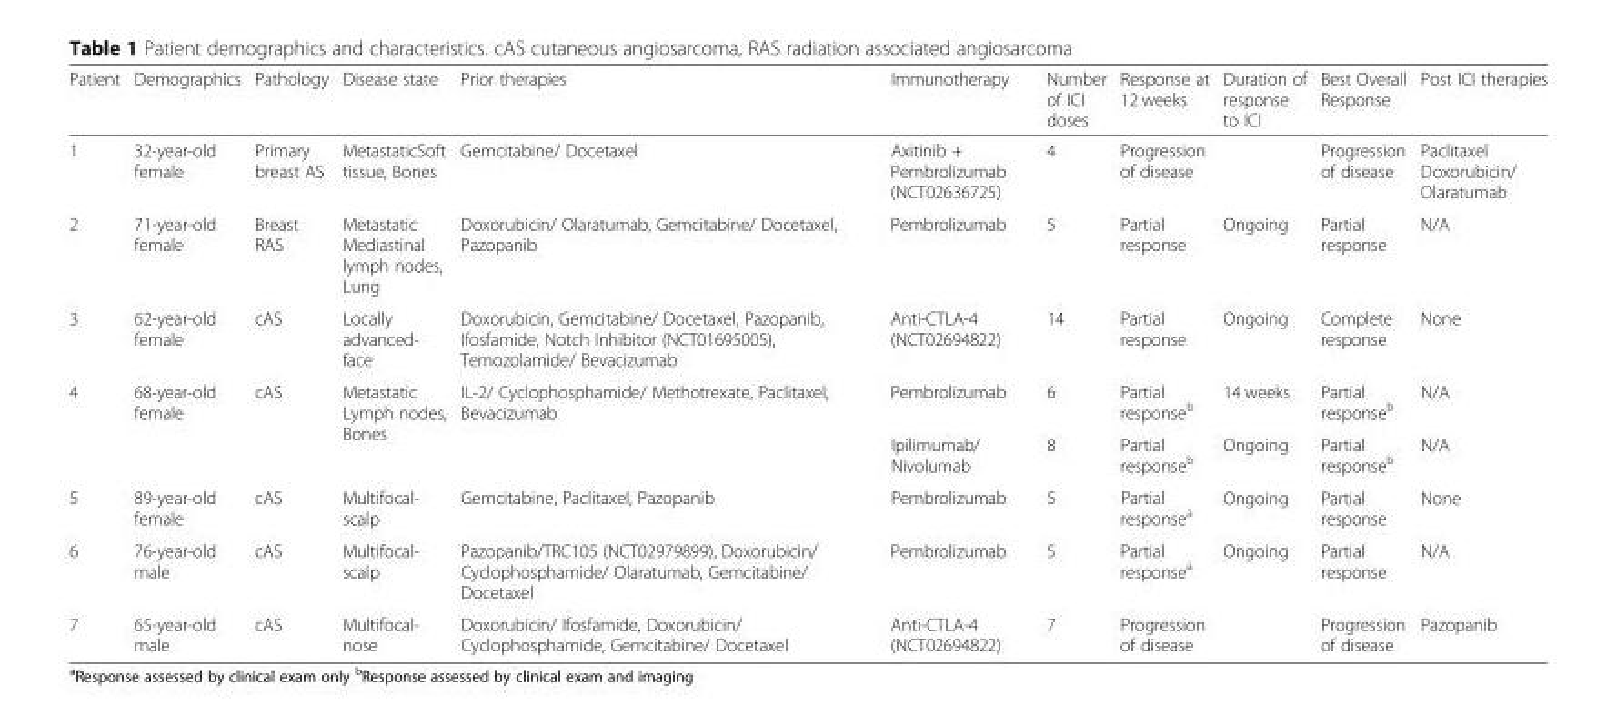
<table><thead><tr><td>Patient</td><td>Demographics</td><td>Pathology</td><td>Disease state</td><td>Prior therapies</td><td>Immunotherapy</td><td>Number of ICI doses</td><td>Response at 12 weeks</td><td>Duration of response to ICI</td><td>Best Overall Response</td><td>Post ICI therapies</td></tr></thead><tbody><tr><td>1</td><td>32-year-old female</td><td>Primary breast AS</td><td>MetastaticSoft tissue, Bones</td><td>Gemcitabine/ Docetaxel</td><td>Axitinib + Pembrolizumab (NCT02636725)</td><td>4</td><td>Progression of disease</td><td></td><td>Progression of disease</td><td>Paclitaxel Doxorubicin/ Olaratumab</td></tr><tr><td>2</td><td>71-year-old female</td><td>Breast RAS</td><td>Metastatic Mediastinal lymph nodes, Lung</td><td>Doxorubicin/ Olaratumab, Gemcitabine/ Docetaxel, Pazopanib</td><td>Pembrolizumab</td><td>5</td><td>Partial response</td><td>Ongoing</td><td>Partial response</td><td>N/A</td></tr><tr><td>3</td><td>62-year-old female</td><td>cAS</td><td>Locally advanced- face</td><td>Doxorubicin, Gemcitabine/ Docetaxel, Pazopanib, Ifosfamide, Notch Inhibitor (NCT01695005), Temozolamide/ Bevacizumab</td><td>Anti-CTLA-4 (NCT02694822)</td><td>14</td><td>Partial response</td><td>Ongoing</td><td>Complete response</td><td>None</td></tr><tr><td rowspan="2">4</td><td rowspan="2">68-year-old female</td><td rowspan="2">cAS</td><td rowspan="2">Metastatic Lymph nodes, Bones</td><td rowspan="2">IL-2/ Cyclophosphamide/ Methotrexate, Paclitaxel, Bevacizumab</td><td>Pembrolizumab</td><td>6</td><td>Partial response<sup>b</sup></td><td>14 weeks</td><td>Partial response<sup>b</sup></td><td>N/A</td></tr><tr><td>Ipilimumab/ Nivolumab</td><td>8</td><td>Partial response<sup>b</sup></td><td>Ongoing</td><td>Partial response<sup>b</sup></td><td>N/A</td></tr><tr><td>5</td><td>89-year-old female</td><td>cAS</td><td>Multifocal- scalp</td><td>Gemcitabine, Paclitaxel, Pazopanib</td><td>Pembrolizumab</td><td>5</td><td>Partial response<sup>a</sup></td><td>Ongoing</td><td>Partial response</td><td>None</td></tr><tr><td>6</td><td>76-year-old male</td><td>cAS</td><td>Multifocal- scalp</td><td>Pazopanib/TRC105 (NCT02979899), Doxorubicin/ Cyclophosphamide/ Olaratumab, Gemcitabine/ Docetaxel</td><td>Pembrolizumab</td><td>5</td><td>Partial response<sup>a</sup></td><td>Ongoing</td><td>Partial response</td><td>N/A</td></tr><tr><td>7</td><td>65-year-old male</td><td>cAS</td><td>Multifocal- nose</td><td>Doxorubicin/ Ifosfamide, Doxorubicin/ Cyclophosphamide, Gemcitabine/ Docetaxel</td><td>Anti-CTLA-4 (NCT02694822)</td><td>7</td><td>Progression of disease</td><td></td><td>Progression of disease</td><td>Pazopanib</td></tr></tbody></table>